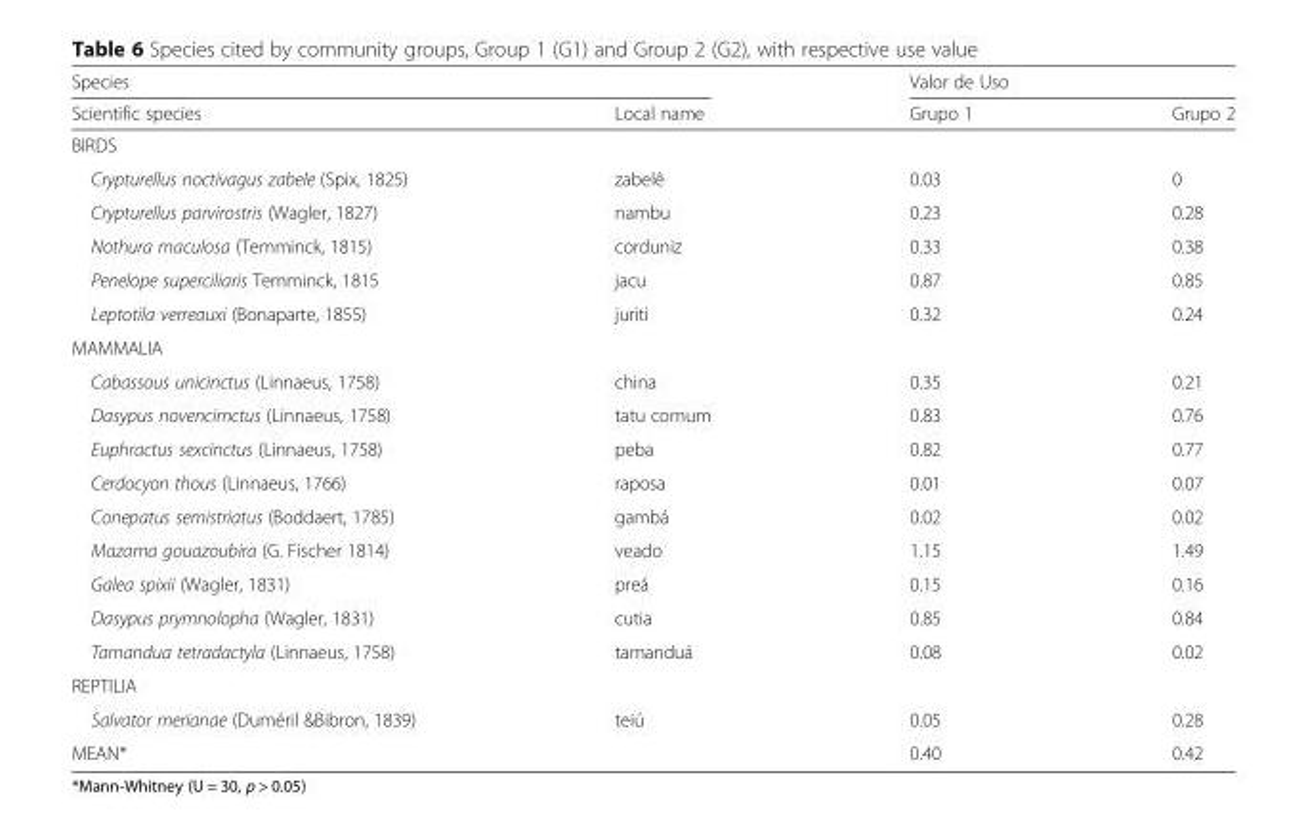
<table><thead><tr><td colspan="2">Species</td><td colspan="2">Valor de Uso</td></tr><tr><td>Scientific species</td><td>Local name</td><td>Grupo 1</td><td>Grupo 2</td></tr></thead><tbody><tr><td colspan="4">BIRDS</td></tr><tr><td>Crypturellus noctivagus zabele (Spix, 1825)</td><td>zabelê</td><td>0.03</td><td>0</td></tr><tr><td>Crypturellus parvirostris (Wagler, 1827)</td><td>nambu</td><td>0.23</td><td>0.28</td></tr><tr><td>Nothura maculosa (Temminck, 1815)</td><td>corduniz</td><td>0.33</td><td>0.38</td></tr><tr><td>Penelope superciliaris Temminck, 1815</td><td>jacu</td><td>0.87</td><td>0.85</td></tr><tr><td>Leptotila verreauxi (Bonaparte, 1855)</td><td>juriti</td><td>0.32</td><td>0.24</td></tr><tr><td colspan="4">MAMMALIA</td></tr><tr><td>Cabassous unicinctus (Linnaeus, 1758)</td><td>china</td><td>0.35</td><td>0.21</td></tr><tr><td>Dasypus novencimctus (Linnaeus, 1758)</td><td>tatu comum</td><td>0.83</td><td>0.76</td></tr><tr><td>Euphractus sexcinctus (Linnaeus, 1758)</td><td>peba</td><td>0.82</td><td>0.77</td></tr><tr><td>Cerdocyon thous (Linnaeus, 1766)</td><td>raposa</td><td>0.01</td><td>0.07</td></tr><tr><td>Conepatus semistriatus (Boddaert, 1785)</td><td>gambá</td><td>0.02</td><td>0.02</td></tr><tr><td>Mazama gouazoubira (G. Fischer 1814)</td><td>veado</td><td>1.15</td><td>1.49</td></tr><tr><td>Galea spixii (Wagler, 1831)</td><td>preá</td><td>0.15</td><td>0.16</td></tr><tr><td>Dasypus prymnolopha (Wagler, 1831)</td><td>cutia</td><td>0.85</td><td>0.84</td></tr><tr><td>Tamandua tetradactyla (Linnaeus, 1758)</td><td>tamanduá</td><td>0.08</td><td>0.02</td></tr><tr><td colspan="4">REPTILIA</td></tr><tr><td>Salvator merianae (Duméril &amp;Bibron, 1839)</td><td>teiú</td><td>0.05</td><td>0.28</td></tr><tr><td>MEAN*</td><td></td><td>0.40</td><td>0.42</td></tr></tbody></table>